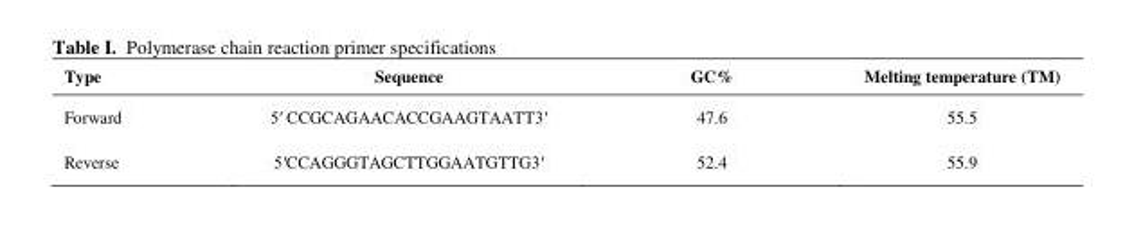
<table><thead><tr><td>Type</td><td>Sequence</td><td>GC%</td><td>Melting temperature (TM)</td></tr></thead><tbody><tr><td>Forward</td><td>5′ CCGCAGAACACCGAAGTAATT3′</td><td>47.6</td><td>55.5</td></tr><tr><td>Reverse</td><td>5′CCAGGGTAGCTTGGAATGTTG3′</td><td>52.4</td><td>55.9</td></tr></tbody></table>